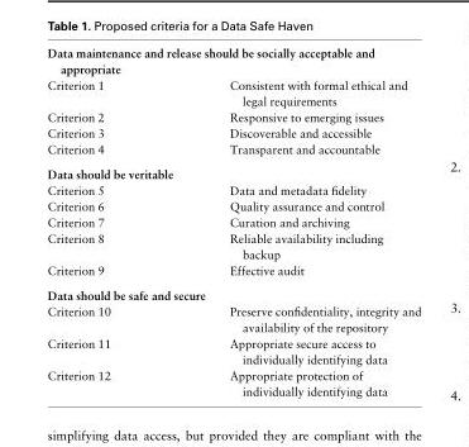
<table><tbody><tr><td colspan="2">Data maintenance and release should be socially acceptable and appropriate</td></tr><tr><td>Criterion 1</td><td>Consistent with formal ethical and legal requirements</td></tr><tr><td>Criterion 2</td><td>Responsive to emerging issues</td></tr><tr><td>Criterion 3</td><td>Discoverable and accessible</td></tr><tr><td>Criterion 4</td><td>Transparent and accountable</td></tr><tr><td colspan="2">Data should be veritable</td></tr><tr><td>Criterion 5</td><td>Data and metadata fidelity</td></tr><tr><td>Criterion 6</td><td>Quality assurance and control</td></tr><tr><td>Criterion 7</td><td>Curation and archiving</td></tr><tr><td>Criterion 8</td><td>Reliable availability including backup</td></tr><tr><td>Criterion 9</td><td>Effective audit</td></tr><tr><td colspan="2">Data should be safe and secure</td></tr><tr><td>Criterion 10</td><td>Preserve confidentiality, integrity and availability of the repository</td></tr><tr><td>Criterion 11</td><td>Appropriate secure access to individually identifying data</td></tr><tr><td>Criterion 12</td><td>Appropriate protection of individually identifying data</td></tr></tbody></table>